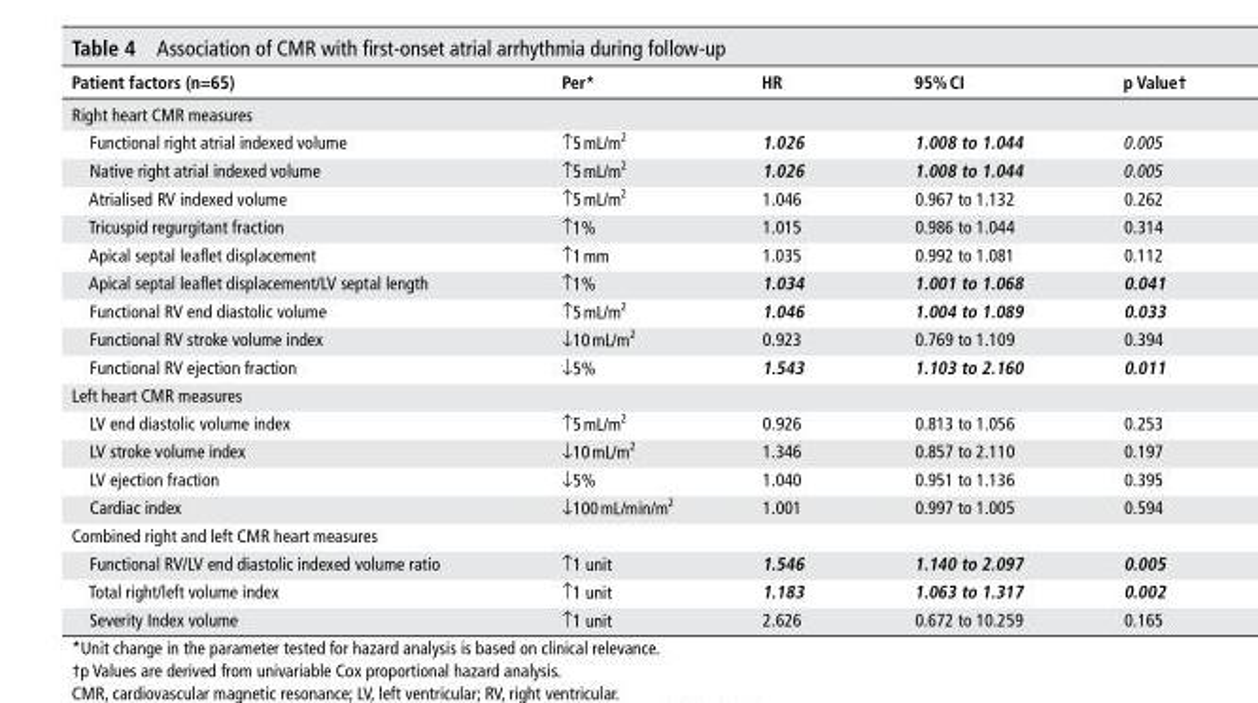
<table><thead><tr><td>Patient factors (n=65)</td><td>Per*</td><td>hr</td><td>95% cI</td><td>p Value†</td></tr></thead><tbody><tr><td colspan="5">Right heart CMR measures</td></tr><tr><td>Functional right atrial indexed volume</td><td>↑5 mL/m<sup>2</sup></td><td>1.026</td><td>1.008 to 1.044</td><td>0.005</td></tr><tr><td>Native right atrial indexed volume</td><td>↑5 mL/m<sup>2</sup></td><td>1.026</td><td>1.008 to 1.044</td><td>0.005</td></tr><tr><td>Atrialised RV indexed volume</td><td>↑5 mL/m<sup>2</sup></td><td>1.046</td><td>0.967 to 1.132</td><td>0.262</td></tr><tr><td>Tricuspid regurgitant fraction</td><td>↑1%</td><td>1.015</td><td>0.986 to 1.044</td><td>0.314</td></tr><tr><td>Apical septal leaflet displacement</td><td>↑1 mm</td><td>1.035</td><td>0.992 to 1.081</td><td>0.112</td></tr><tr><td>Apical septal leaflet displacement/LV septal length</td><td>↑1%</td><td>1.034</td><td>1.001 to 1.068</td><td>0.041</td></tr><tr><td>Functional RV end diastolic volume</td><td>↑5 mL/m<sup>2</sup></td><td>1.046</td><td>1.004 to 1.089</td><td>0.033</td></tr><tr><td>Functional RV stroke volume index</td><td>↓10 mL/m<sup>2</sup></td><td>0.923</td><td>0.769 to 1.109</td><td>0.394</td></tr><tr><td>Functional RV ejection fraction</td><td>↓5%</td><td>1.543</td><td>1.103 to 2.160</td><td>0.011</td></tr><tr><td colspan="5">Left heart CMR measures</td></tr><tr><td>LV end diastolic volume index</td><td>↑5 mL/m<sup>2</sup></td><td>0.926</td><td>0.813 to 1.056</td><td>0.253</td></tr><tr><td>LV stroke volume index</td><td>↓10 mL/m<sup>2</sup></td><td>1.346</td><td>0.857 to 2.110</td><td>0.197</td></tr><tr><td>LV ejection fraction</td><td>↓5%</td><td>1.040</td><td>0.951 to 1.136</td><td>0.395</td></tr><tr><td>Cardiac index</td><td>↓100 mL/min/m<sup>2</sup></td><td>1.001</td><td>0.997 to 1.005</td><td>0.594</td></tr><tr><td colspan="5">Combined right and left CMR heart measures</td></tr><tr><td>Functional RV/LV end diastolic indexed volume ratio</td><td>↑1 unit</td><td>1.546</td><td>1.140 to 2.097</td><td>0.005</td></tr><tr><td>Total right/left volume index</td><td>↑1 unit</td><td>1.183</td><td>1.063 to 1.317</td><td>0.002</td></tr><tr><td>Severity Index volume</td><td>↑1 unit</td><td>2.626</td><td>0.672 to 10.259</td><td>0.165</td></tr></tbody></table>